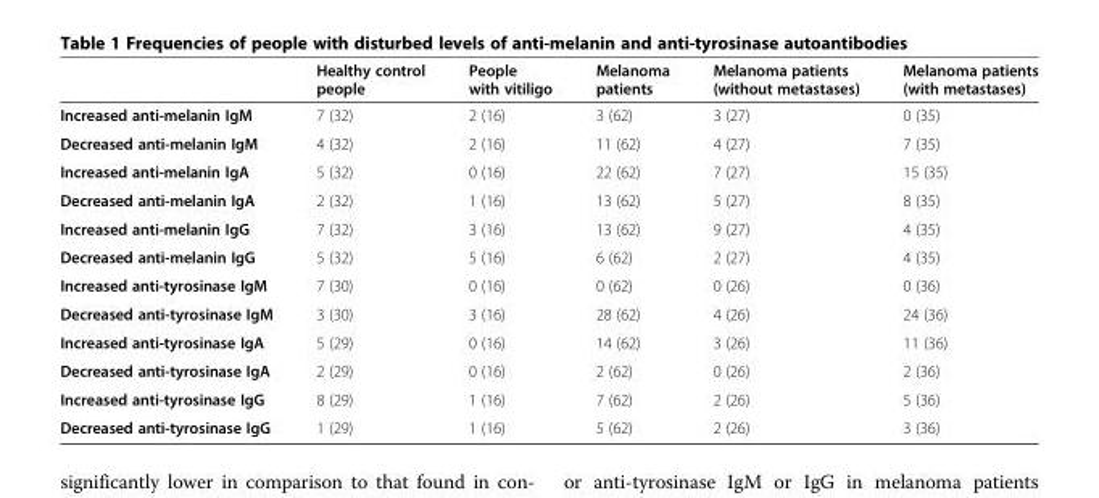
<table><thead><tr><td></td><td>Healthy control people</td><td>People with vitiligo</td><td>Melanoma patients</td><td>Melanoma patients (without metastases)</td><td>Melanoma patients (with metastases)</td></tr></thead><tbody><tr><td>Increased anti-melanin IgM</td><td>7 (32)</td><td>2 (16)</td><td>3 (62)</td><td>3 (27)</td><td>0 (35)</td></tr><tr><td>Decreased anti-melanin IgM</td><td>4 (32)</td><td>2 (16)</td><td>11 (62)</td><td>4 (27)</td><td>7 (35)</td></tr><tr><td>Increased anti-melanin IgA</td><td>5 (32)</td><td>0 (16)</td><td>22 (62)</td><td>7 (27)</td><td>15 (35)</td></tr><tr><td>Decreased anti-melanin IgA</td><td>2 (32)</td><td>1 (16)</td><td>13 (62)</td><td>5 (27)</td><td>8 (35)</td></tr><tr><td>Increased anti-melanin IgG</td><td>7 (32)</td><td>3 (16)</td><td>13 (62)</td><td>9 (27)</td><td>4 (35)</td></tr><tr><td>Decreased anti-melanin IgG</td><td>5 (32)</td><td>5 (16)</td><td>6 (62)</td><td>2 (27)</td><td>4 (35)</td></tr><tr><td>Increased anti-tyrosinase IgM</td><td>7 (30)</td><td>0 (16)</td><td>0 (62)</td><td>0 (26)</td><td>0 (36)</td></tr><tr><td>Decreased anti-tyrosinase IgM</td><td>3 (30)</td><td>3 (16)</td><td>28 (62)</td><td>4 (26)</td><td>24 (36)</td></tr><tr><td>Increased anti-tyrosinase IgA</td><td>5 (29)</td><td>0 (16)</td><td>14 (62)</td><td>3 (26)</td><td>11 (36)</td></tr><tr><td>Decreased anti-tyrosinase IgA</td><td>2 (29)</td><td>0 (16)</td><td>2 (62)</td><td>0 (26)</td><td>2 (36)</td></tr><tr><td>Increased anti-tyrosinase IgG</td><td>8 (29)</td><td>1 (16)</td><td>7 (62)</td><td>2 (26)</td><td>5 (36)</td></tr><tr><td>Decreased anti-tyrosinase IgG</td><td>1 (29)</td><td>1 (16)</td><td>5 (62)</td><td>2 (26)</td><td>3 (36)</td></tr></tbody></table>